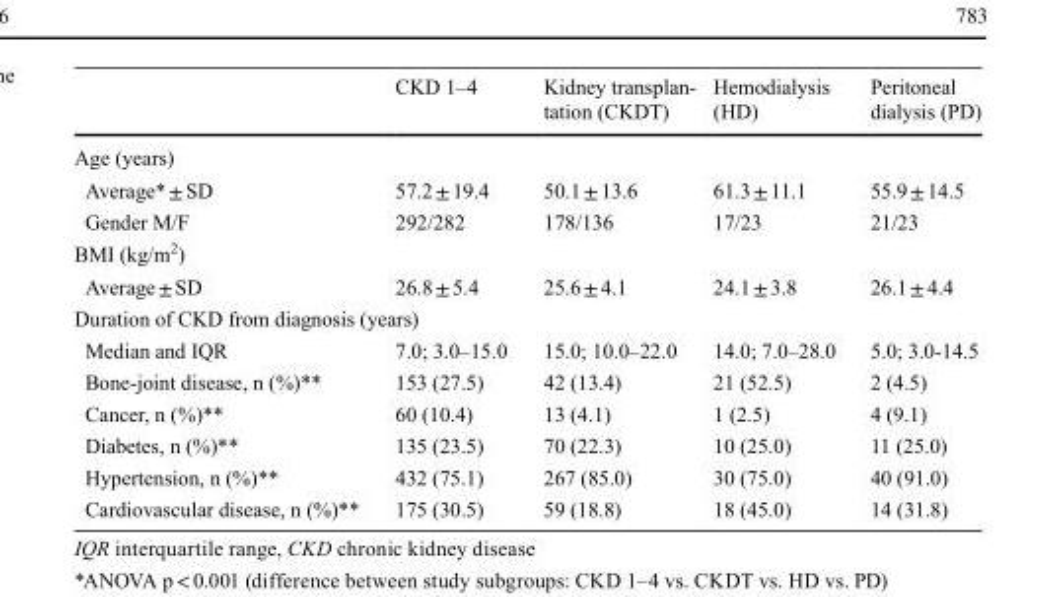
<table><thead><tr><td></td><td>CKD 1–4</td><td>Kidney transplan- tation (CKDT)</td><td>�emo�i�lysis� (HD)</td><td>Peritoneal dialysis (PD)</td></tr></thead><tbody><tr><td colspan="5">Age (years)</td></tr><tr><td>Average* ± SD</td><td>57.2 ± 19.4</td><td>50.1 ± 13.6</td><td>61.3 ±�����</td><td>55.9 ± 14.5</td></tr><tr><td>Gender M/F</td><td>292/282</td><td>178/136</td><td>17/23</td><td>21/23</td></tr><tr><td colspan="5">BMI (kg/m<sup>2</sup>)</td></tr><tr><td>Average ± SD</td><td>26.8 ± 5.4</td><td>25.6 ± 4.1</td><td>24.1 ± 3.8</td><td>26.1 ± 4.4</td></tr><tr><td colspan="5">Duration of CKD from diagnosis (years)</td></tr><tr><td>�e�i�n��n�����</td><td>7.0; 3.0–15.0</td><td>15.0; 10.0–22.0</td><td>14.0; 7.0–28.0</td><td>5.0; 3.0-14.5</td></tr><tr><td>Bone-joint disease, n (%)**</td><td>153 (27.5)</td><td>42 (13.4)</td><td>21 (52.5)</td><td>2 (4.5)</td></tr><tr><td>Cancer, n (%)**</td><td>60 (10.4)</td><td>13 (4.1)</td><td>1 (2.5)</td><td>4 (9.1)</td></tr><tr><td>Diabetes, n (%)**</td><td>135 (23.5)</td><td>70 (22.3)</td><td>10 (25.0)</td><td>11 (25.0)</td></tr><tr><td>Hypertension, n (%)**</td><td>432 (75.1)</td><td>267 (85.0)</td><td>30 (75.0)</td><td>40 (91.0)</td></tr><tr><td>Cardiovascular disease, n (%)**</td><td>175 (30.5)</td><td>59 (18.8)</td><td>18 (45.0)</td><td>14 (31.8)</td></tr></tbody></table>